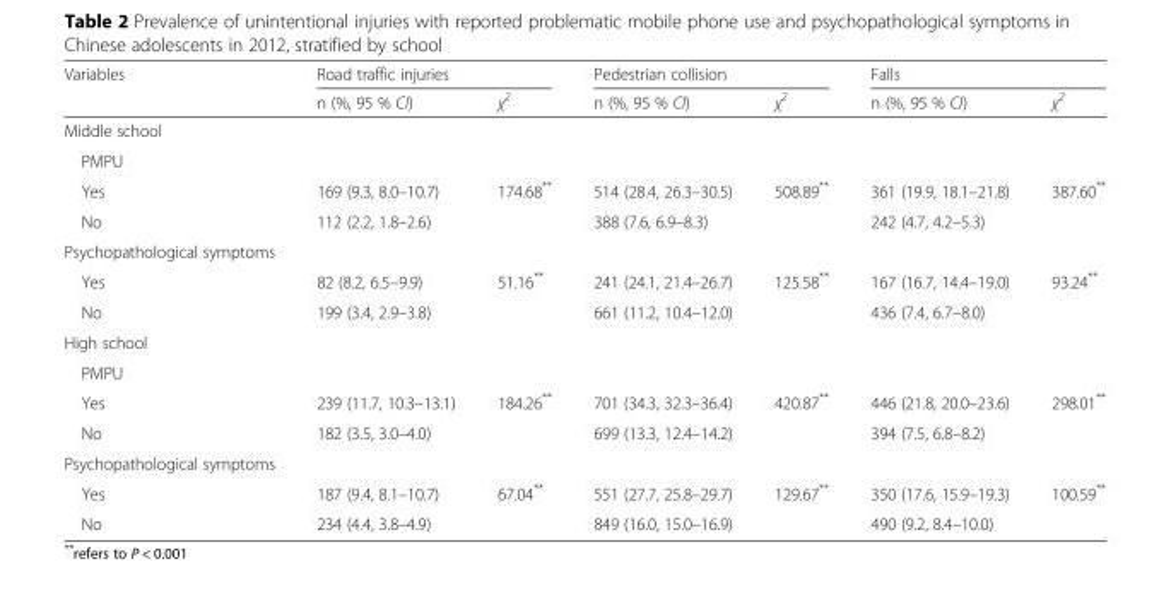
<table><thead><tr><td rowspan="2">Variables</td><td colspan="2">Road traffic injuries</td><td colspan="2">Pedestrian collision</td><td colspan="2">Falls</td></tr><tr><td>n (%, 95 % CI)</td><td>χ<sup>2</sup></td><td>n (%, 95 % CI)</td><td>χ<sup>2</sup></td><td>n (%, 95 % CI)</td><td>χ<sup>2</sup></td></tr></thead><tbody><tr><td colspan="7">Middle school</td></tr><tr><td colspan="7">PMPU</td></tr><tr><td>Yes</td><td>169 (9.3, 8.0–10.7)</td><td rowspan="2">174.68**</td><td>514 (28.4, 26.3–30.5)</td><td rowspan="2">508.89**</td><td>361 (19.9, 18.1–21.8)</td><td rowspan="2">387.60**</td></tr><tr><td>No</td><td>112 (2.2, 1.8–2.6)</td><td>388 (7.6, 6.9–8.3)</td><td>242 (4.7, 4.2–5.3)</td></tr><tr><td colspan="7">Psychopathological symptoms</td></tr><tr><td>Yes</td><td>82 (8.2, 6.5–9.9)</td><td rowspan="2">51.16**</td><td>241 (24.1, 21.4–26.7)</td><td rowspan="2">125.58**</td><td>167 (16.7, 14.4–19.0)</td><td rowspan="2">93.24**</td></tr><tr><td>No</td><td>199 (3.4, 2.9–3.8)</td><td>661 (11.2, 10.4–12.0)</td><td>436 (7.4, 6.7–8.0)</td></tr><tr><td colspan="7">High school</td></tr><tr><td colspan="7">PMPU</td></tr><tr><td>Yes</td><td>239 (11.7, 10.3–13.1)</td><td rowspan="2">184.26**</td><td>701 (34.3, 32.3–36.4)</td><td rowspan="2">420.87**</td><td>446 (21.8, 20.0–23.6)</td><td rowspan="2">298.01**</td></tr><tr><td>No</td><td>182 (3.5, 3.0–4.0)</td><td>699 (13.3, 12.4–14.2)</td><td>394 (7.5, 6.8–8.2)</td></tr><tr><td colspan="7">Psychopathological symptoms</td></tr><tr><td>Yes</td><td>187 (9.4, 8.1–10.7)</td><td rowspan="2">67.04**</td><td>551 (27.7, 25.8–29.7)</td><td rowspan="2">129.67**</td><td>350 (17.6, 15.9–19.3)</td><td rowspan="2">100.59**</td></tr><tr><td>No</td><td>234 (4.4, 3.8–4.9)</td><td>849 (16.0, 15.0–16.9)</td><td>490 (9.2, 8.4–10.0)</td></tr></tbody></table>